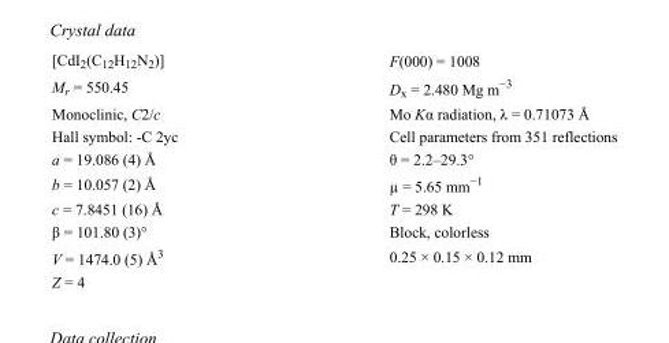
<table><tbody><tr><td>[CdI<sub>2</sub>(C<sub>12</sub>H<sub>12</sub>N<sub>2</sub>)]</td><td>F(000) = 1008</td></tr><tr><td>M<sub>r</sub> = 550.45</td><td>D<sub>x</sub> = 2.480 Mg m<sup>−3</sup></td></tr><tr><td>Monoclinic, C2/c</td><td>Mo Kα radiation, λ = 0.71073 Å</td></tr><tr><td>Hall symbol: -C 2yc</td><td>Cell parameters from 351 reflections</td></tr><tr><td>a = 19.086 (4) Å</td><td>θ = 2.2–29.3°</td></tr><tr><td>b = 10.057 (2) Å</td><td>µ = 5.65 mm<sup>−1</sup></td></tr><tr><td>c = 7.8451 (16) Å</td><td>T = 298 K</td></tr><tr><td>β = 101.80 (3)°</td><td>Block, colorless</td></tr><tr><td>V = 1474.0 (5) Å<sup>3</sup></td><td>0.25 × 0.15 × 0.12 mm</td></tr><tr><td>Z = 4</td><td></td></tr></tbody></table>